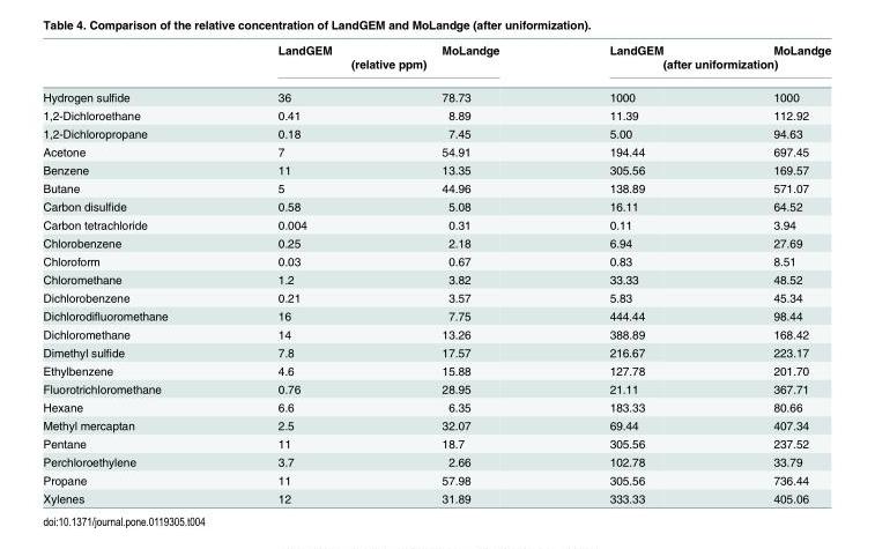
<table><thead><tr><td rowspan="2"></td><td>LandGEM</td><td>MoLandge</td><td>LandGEM</td><td>MoLandge</td></tr><tr><td colspan="2">(relative ppm)</td><td colspan="2">(after uniformization)</td></tr></thead><tbody><tr><td>Hydrogen sulfide</td><td>36</td><td>78.73</td><td>1000</td><td>1000</td></tr><tr><td>1,2-Dichloroethane</td><td>0.41</td><td>8.89</td><td>11.39</td><td>112.92</td></tr><tr><td>1,2-Dichloropropane</td><td>0.18</td><td>7.45</td><td>5.00</td><td>94.63</td></tr><tr><td>Acetone</td><td>7</td><td>54.91</td><td>194.44</td><td>697.45</td></tr><tr><td>Benzene</td><td>11</td><td>13.35</td><td>305.56</td><td>169.57</td></tr><tr><td>Butane</td><td>5</td><td>44.96</td><td>138.89</td><td>571.07</td></tr><tr><td>Carbon disulfide</td><td>0.58</td><td>5.08</td><td>16.11</td><td>64.52</td></tr><tr><td>Carbon tetrachloride</td><td>0.004</td><td>0.31</td><td>0.11</td><td>3.94</td></tr><tr><td>Chlorobenzene</td><td>0.25</td><td>2.18</td><td>6.94</td><td>27.69</td></tr><tr><td>Chloroform</td><td>0.03</td><td>0.67</td><td>0.83</td><td>8.51</td></tr><tr><td>Chloromethane</td><td>1.2</td><td>3.82</td><td>33.33</td><td>48.52</td></tr><tr><td>Dichlorobenzene</td><td>0.21</td><td>3.57</td><td>5.83</td><td>45.34</td></tr><tr><td>Dichlorodifluoromethane</td><td>16</td><td>7.75</td><td>444.44</td><td>98.44</td></tr><tr><td>Dichloromethane</td><td>14</td><td>13.26</td><td>388.89</td><td>168.42</td></tr><tr><td>Dimethyl sulfide</td><td>7.8</td><td>17.57</td><td>216.67</td><td>223.17</td></tr><tr><td>Ethylbenzene</td><td>4.6</td><td>15.88</td><td>127.78</td><td>201.70</td></tr><tr><td>Fluorotrichloromethane</td><td>0.76</td><td>28.95</td><td>21.11</td><td>367.71</td></tr><tr><td>Hexane</td><td>6.6</td><td>6.35</td><td>183.33</td><td>80.66</td></tr><tr><td>Methyl mercaptan</td><td>2.5</td><td>32.07</td><td>69.44</td><td>407.34</td></tr><tr><td>Pentane</td><td>11</td><td>18.7</td><td>305.56</td><td>237.52</td></tr><tr><td>Perchloroethylene</td><td>3.7</td><td>2.66</td><td>102.78</td><td>33.79</td></tr><tr><td>Propane</td><td>11</td><td>57.98</td><td>305.56</td><td>736.44</td></tr><tr><td>Xylenes</td><td>12</td><td>31.89</td><td>333.33</td><td>405.06</td></tr></tbody></table>